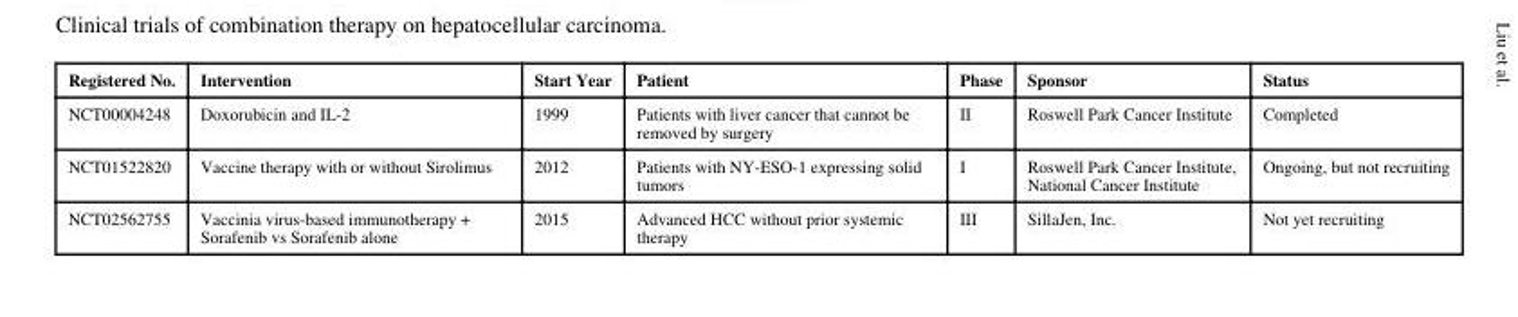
<table><thead><tr><td>Registered No.</td><td>Intervention</td><td>Start Year</td><td>Patient</td><td>Phase</td><td>Sponsor</td><td>Status</td></tr></thead><tbody><tr><td>NCT00004248</td><td>Doxorubicin and IL-2</td><td>1999</td><td>Patients with liver cancer that cannot be removed by surgery</td><td>II</td><td>Roswell Park Cancer Institute</td><td>Completed</td></tr><tr><td>NCT01522820</td><td>Vaccine therapy with or without Sirolimus</td><td>2012</td><td>Patients with NY-ESO-1 expressing solid tumors</td><td>I</td><td>Roswell Park Cancer Institute, National Cancer Institute</td><td>Ongoing, but not recruiting</td></tr><tr><td>NCT02562755</td><td>Vaccinia virus-based immunotherapy + Sorafenib vs Sorafenib alone</td><td>2015</td><td>Advanced HCC without prior systemic therapy</td><td>III</td><td>SillaJen, Inc.</td><td>Not yet recruiting</td></tr></tbody></table>